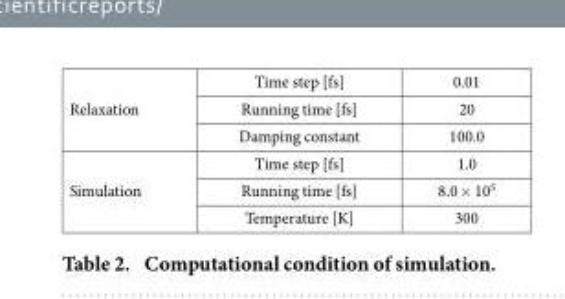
<table><tbody><tr><td rowspan="3">Relaxation</td><td>Time step [fs]</td><td>0.01</td></tr><tr><td>Running time [fs]</td><td>20</td></tr><tr><td>Damping constant</td><td>100.0</td></tr><tr><td rowspan="3">Simulation</td><td>Time step [fs]</td><td>1.0</td></tr><tr><td>Running time [fs]</td><td>8.0 × 10<sup>5</sup></td></tr><tr><td>Temperature [K]</td><td>300</td></tr></tbody></table>